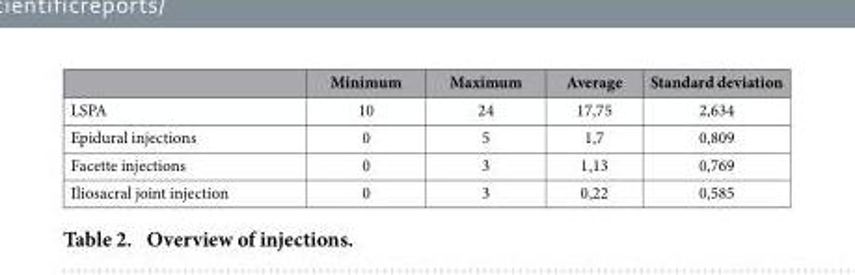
<table><thead><tr><td></td><td>Minimum</td><td>Maximum</td><td>Average</td><td>Standard deviation</td></tr></thead><tbody><tr><td>LSPA</td><td>10</td><td>24</td><td>17,75</td><td>2,634</td></tr><tr><td>Epidural injections</td><td>0</td><td>5</td><td>1,7</td><td>0,809</td></tr><tr><td>Facette injections</td><td>0</td><td>3</td><td>1,13</td><td>0,769</td></tr><tr><td>Iliosacral joint injection</td><td>0</td><td>3</td><td>0,22</td><td>0,585</td></tr></tbody></table>